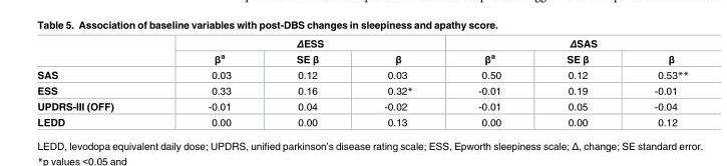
<table><thead><tr><td rowspan="2"></td><td colspan="3">ΔESS</td><td colspan="3">ΔSAS</td></tr><tr><td>β<sup>a</sup></td><td>SE β</td><td>β</td><td>β<sup>a</sup></td><td>SE β</td><td>β</td></tr></thead><tbody><tr><td>SAS</td><td>0.03</td><td>0.12</td><td>0.03</td><td>0.50</td><td>0.12</td><td>0.53**</td></tr><tr><td>ESS</td><td>0.33</td><td>0.16</td><td>0.32*</td><td>-0.01</td><td>0.19</td><td>-0.01</td></tr><tr><td>UPDRS-III (OFF)</td><td>-0.01</td><td>0.04</td><td>-0.02</td><td>-0.01</td><td>0.05</td><td>-0.04</td></tr><tr><td>LEDD</td><td>0.00</td><td>0.00</td><td>0.13</td><td>0.00</td><td>0.00</td><td>0.12</td></tr></tbody></table>